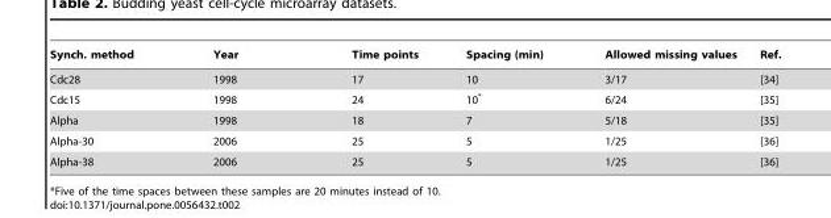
<table><thead><tr><td>Synch. method</td><td>Year</td><td>Time points</td><td>Spacing (min)</td><td>Allowed missing values</td><td>Ref.</td></tr></thead><tbody><tr><td>Cdc28</td><td>1998</td><td>17</td><td>10</td><td>3/17</td><td>[34]</td></tr><tr><td>Cdc15</td><td>1998</td><td>24</td><td>10*</td><td>6/24</td><td>[35]</td></tr><tr><td>Alpha</td><td>1998</td><td>18</td><td>7</td><td>5/18</td><td>[35]</td></tr><tr><td>Alpha-30</td><td>2006</td><td>25</td><td>5</td><td>1/25</td><td>[36]</td></tr><tr><td>Alpha-38</td><td>2006</td><td>25</td><td>5</td><td>1/25</td><td>[36]</td></tr></tbody></table>